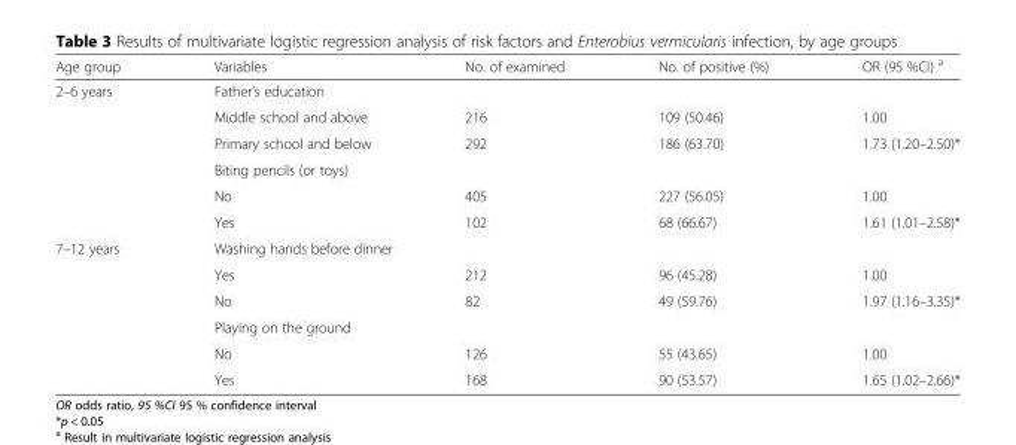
<table><thead><tr><td>Age group</td><td>Variables</td><td>No. of examined</td><td>No. of positive (%)</td><td>OR (95 %CI) <sup>a</sup></td></tr></thead><tbody><tr><td rowspan="6">2–6 years</td><td>Father’s education</td><td></td><td></td><td></td></tr><tr><td>Middle school and above</td><td>216</td><td>109 (50.46)</td><td>1.00</td></tr><tr><td>Primary school and below</td><td>292</td><td>186 (63.70)</td><td>1.73 (1.20–2.50)*</td></tr><tr><td colspan="2">Biting pencils (or toys)</td><td></td><td></td></tr><tr><td>No</td><td>405</td><td>227 (56.05)</td><td>1.00</td></tr><tr><td>Yes</td><td>102</td><td>68 (66.67)</td><td>1.61 (1.01–2.58)*</td></tr><tr><td rowspan="6">7–12 years</td><td colspan="3">Washing hands before dinner</td><td></td></tr><tr><td>Yes</td><td>212</td><td>96 (45.28)</td><td>1.00</td></tr><tr><td>No</td><td>82</td><td>49 (59.76)</td><td>1.97 (1.16–3.35)*</td></tr><tr><td colspan="3">Playing on the ground</td><td></td></tr><tr><td>No</td><td>126</td><td>55 (43.65)</td><td>1.00</td></tr><tr><td>Yes</td><td>168</td><td>90 (53.57)</td><td>1.65 (1.02–2.66)*</td></tr></tbody></table>